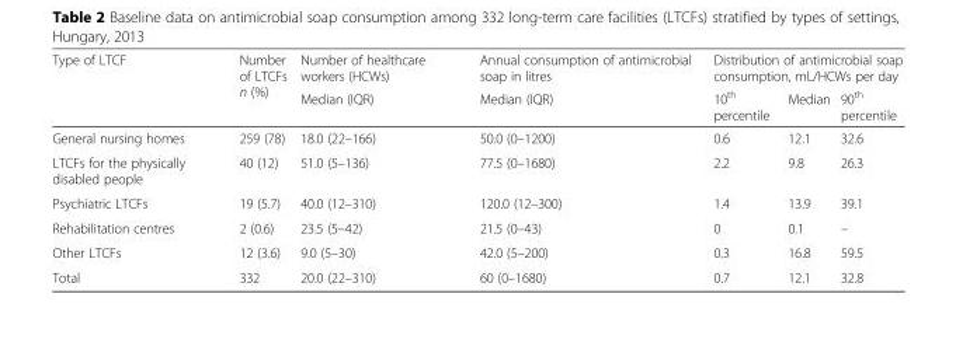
<table><thead><tr><td rowspan="2">Type of LTCF</td><td rowspan="2">Number of LTCFs n (%)</td><td rowspan="2">Number of healthcare workers (HCWs) Median (IQR)</td><td rowspan="2">Annual consumption of antimicrobial soap in litres Median (IQR)</td><td colspan="3">Distribution of antimicrobial soap consumption, mL/HCWs per day</td></tr><tr><td>10<sup>th</sup> percentile</td><td>Median</td><td>90<sup>th</sup> percentile</td></tr></thead><tbody><tr><td>General nursing homes</td><td>259 (78)</td><td>18.0 (22–166)</td><td>50.0 (0–1200)</td><td>0.6</td><td>12.1</td><td>32.6</td></tr><tr><td>LTCFs for the physically disabled people</td><td>40 (12)</td><td>51.0 (5–136)</td><td>77.5 (0–1680)</td><td>2.2</td><td>9.8</td><td>26.3</td></tr><tr><td>Psychiatric LTCFs</td><td>19 (5.7)</td><td>40.0 (12–310)</td><td>120.0 (12–300)</td><td>1.4</td><td>13.9</td><td>39.1</td></tr><tr><td>Rehabilitation centres</td><td>2 (0.6)</td><td>23.5 (5–42)</td><td>21.5 (0–43)</td><td>0</td><td>0.1</td><td>–</td></tr><tr><td>Other LTCFs</td><td>12 (3.6)</td><td>9.0 (5–30)</td><td>42.0 (5–200)</td><td>0.3</td><td>16.8</td><td>59.5</td></tr><tr><td>Total</td><td>332</td><td>20.0 (22–310)</td><td>60 (0–1680)</td><td>0.7</td><td>12.1</td><td>32.8</td></tr></tbody></table>